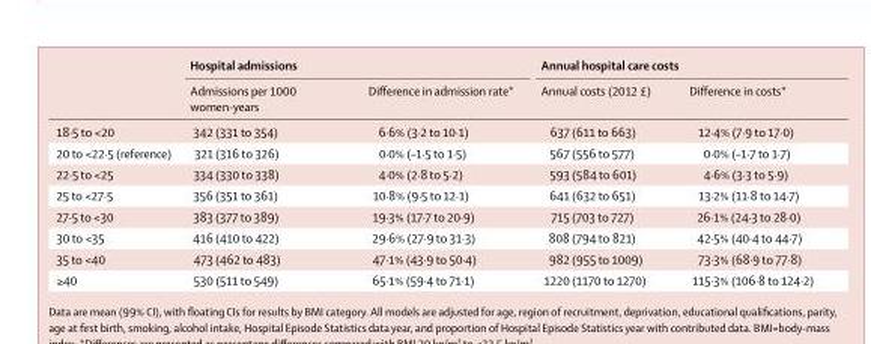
<table><thead><tr><td rowspan="2"></td><td colspan="2">Hospital admissions</td><td colspan="2">Annual hospital care costs</td></tr><tr><td>Admissions per 1000 women-years</td><td>Difference in admission rate*</td><td>Annual costs (2012 £)</td><td>Difference in costs*</td></tr></thead><tbody><tr><td>18·5 to &lt;20</td><td>342 (331 to 354)</td><td>6·6% (3·2 to 10·1)</td><td>637 (611 to 663)</td><td>12·4% (7·9 to 17·0)</td></tr><tr><td>20 to &lt;22·5 (reference)</td><td>321 (316 to 326)</td><td>0·0% (–1·5 to 1·5)</td><td>567 (556 to 577)</td><td>0·0% (–1·7 to 1·7)</td></tr><tr><td>22·5 to &lt;25</td><td>334 (330 to 338)</td><td>4·0% (2·8 to 5·2)</td><td>593 (584 to 601)</td><td>4·6% (3·3 to 5·9)</td></tr><tr><td>25 to &lt;27·5</td><td>356 (351 to 361)</td><td>10·8% (9·5 to 12·1)</td><td>641 (632 to 651)</td><td>13·2% (11·8 to 14·7)</td></tr><tr><td>27·5 to &lt;30</td><td>383 (377 to 389)</td><td>19·3% (17·7 to 20·9)</td><td>715 (703 to 727)</td><td>26·1% (24·3 to 28·0)</td></tr><tr><td>30 to &lt;35</td><td>416 (410 to 422)</td><td>29·6% (27·9 to 31·3)</td><td>808 (794 to 821)</td><td>42·5% (40·4 to 44·7)</td></tr><tr><td>35 to &lt;40</td><td>473 (462 to 483)</td><td>47·1% (43·9 to 50·4)</td><td>982 (955 to 1009)</td><td>73·3% (68·9 to 77·8)</td></tr><tr><td>≥40</td><td>530 (511 to 549)</td><td>65·1% (59·4 to 71·1)</td><td>1220 (1170 to 1270)</td><td>115·3% (106·8 to 124·2)</td></tr></tbody></table>